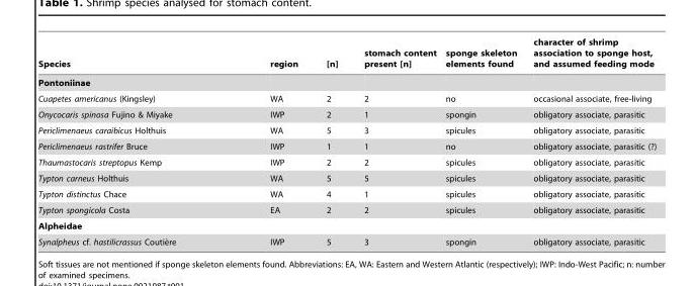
<table><thead><tr><td>Species</td><td>region</td><td>[n]</td><td>stomach content present [n]</td><td>sponge skeleton elements found</td><td>character of shrimp association to sponge host, and assumed feeding mode</td></tr></thead><tbody><tr><td colspan="6">Pontoniinae</td></tr><tr><td>Cuapetes americanus (Kingsley)</td><td>WA</td><td>2</td><td>2</td><td>no</td><td>occasional associate, free-living</td></tr><tr><td>Onycocaris spinosa Fujino &amp; Miyake</td><td>IWP</td><td>2</td><td>1</td><td>spongin</td><td>obligatory associate, parasitic</td></tr><tr><td>Periclimenaeus caraibicus Holthuis</td><td>WA</td><td>5</td><td>3</td><td>spicules</td><td>obligatory associate, parasitic</td></tr><tr><td>Periclimenaeus rastrifer Bruce</td><td>IWP</td><td>1</td><td>1</td><td>no</td><td>obligatory associate, parasitic (?)</td></tr><tr><td>Thaumastocaris streptopus Kemp</td><td>IWP</td><td>2</td><td>2</td><td>spicules</td><td>obligatory associate, parasitic</td></tr><tr><td>Typton carneus Holthuis</td><td>WA</td><td>5</td><td>5</td><td>spicules</td><td>obligatory associate, parasitic</td></tr><tr><td>Typton distinctus Chace</td><td>WA</td><td>4</td><td>1</td><td>spicules</td><td>obligatory associate, parasitic</td></tr><tr><td>Typton spongicola Costa</td><td>EA</td><td>2</td><td>2</td><td>spicules</td><td>obligatory associate, parasitic</td></tr><tr><td colspan="6">Alpheidae</td></tr><tr><td>Synalpheus cf. hastilicrassus Coutie`re</td><td>IWP</td><td>5</td><td>3</td><td>spongin</td><td>obligatory associate, parasitic</td></tr></tbody></table>